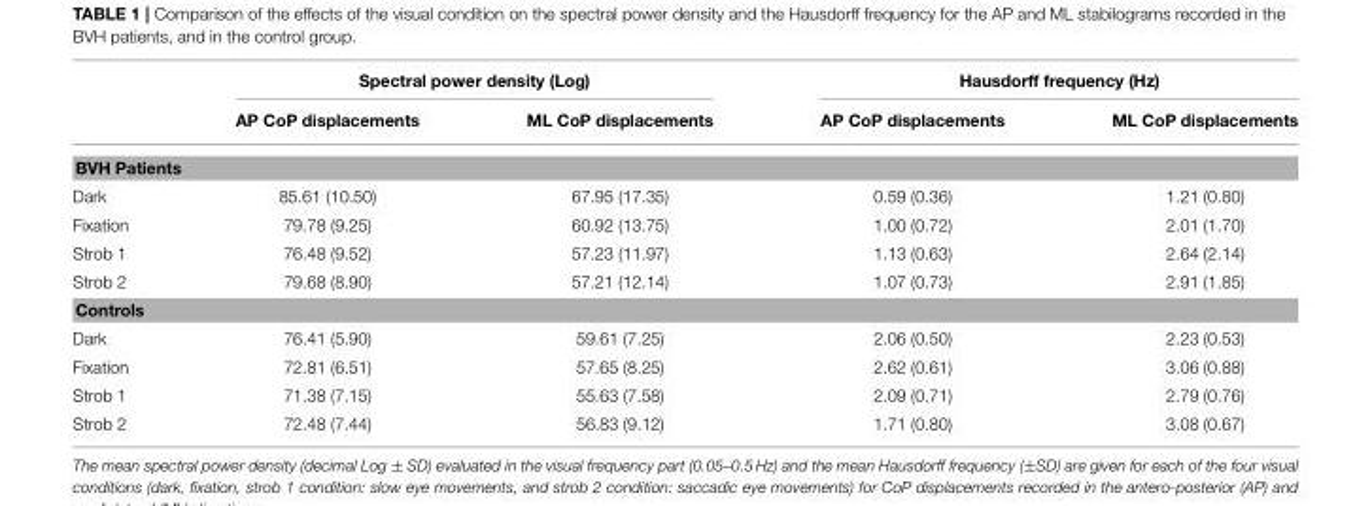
<table><thead><tr><td rowspan="2"></td><td colspan="2">Spectral power density (Log)</td><td colspan="2">Hausdorff frequency (Hz)</td></tr><tr><td>AP CoP displacements</td><td>ML CoP displacements</td><td>AP CoP displacements</td><td>ML CoP displacements</td></tr></thead><tbody><tr><td colspan="5">BVH Patients</td></tr><tr><td>Dark</td><td>85.61 (10.50)</td><td>67.95 (17.35)</td><td>0.59 (0.36)</td><td>1.21 (0.80)</td></tr><tr><td>Fixation</td><td>79.78 (9.25)</td><td>60.92 (13.75)</td><td>1.00 (0.72)</td><td>2.01 (1.70)</td></tr><tr><td>Strob 1</td><td>76.48 (9.52)</td><td>57.23 (11.97)</td><td>1.13 (0.63)</td><td>2.64 (2.14)</td></tr><tr><td>Strob 2</td><td>79.68 (8.90)</td><td>57.21 (12.14)</td><td>1.07 (0.73)</td><td>2.91 (1.85)</td></tr><tr><td colspan="5">Controls</td></tr><tr><td>Dark</td><td>76.41 (5.90)</td><td>59.61 (7.25)</td><td>2.06 (0.50)</td><td>2.23 (0.53)</td></tr><tr><td>Fixation</td><td>72.81 (6.51)</td><td>57.65 (8.25)</td><td>2.62 (0.61)</td><td>3.06 (0.88)</td></tr><tr><td>Strob 1</td><td>71.38 (7.15)</td><td>55.63 (7.58)</td><td>2.09 (0.71)</td><td>2.79 (0.76)</td></tr><tr><td>Strob 2</td><td>72.48 (7.44)</td><td>56.83 (9.12)</td><td>1.71 (0.80)</td><td>3.08 (0.67)</td></tr></tbody></table>